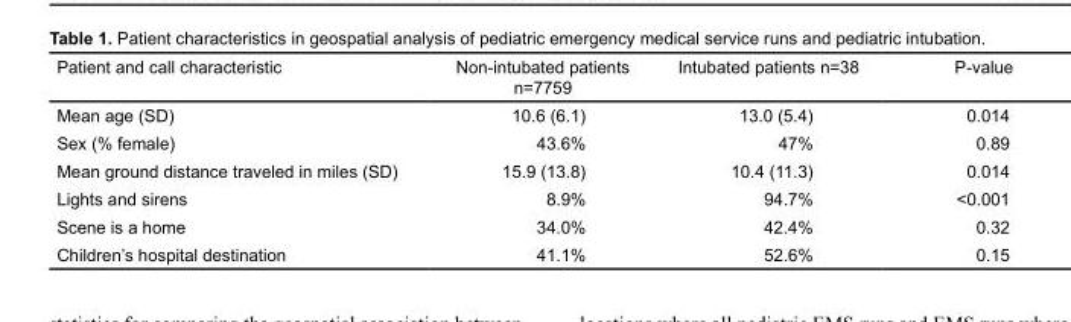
<table><thead><tr><td>Patient and call characteristic</td><td>Non-intubated patients n=7759</td><td>Intubated patients n=38</td><td>P-value</td></tr></thead><tbody><tr><td>Mean age (SD)</td><td>10.6 (6.1)</td><td>13.0 (5.4)</td><td>0.014</td></tr><tr><td>Sex (% female)</td><td>43.6%</td><td>47%</td><td>0.89</td></tr><tr><td>Mean ground distance traveled in miles (SD)</td><td>15.9 (13.8)</td><td>10.4 (11.3)</td><td>0.014</td></tr><tr><td>Lights and sirens</td><td>8.9%</td><td>94.7%</td><td>&lt;0.001</td></tr><tr><td>Scene is a home</td><td>34.0%</td><td>42.4%</td><td>0.32</td></tr><tr><td>Children’s hospital destination</td><td>41.1%</td><td>52.6%</td><td>0.15</td></tr></tbody></table>